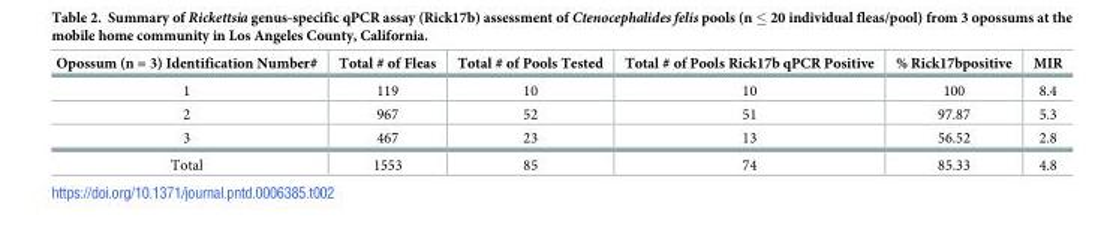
<table><thead><tr><td>Opossum (n = 3) Identification Number#</td><td>Total # of Fleas</td><td>Total # of Pools Tested</td><td>Total # of Pools Rick17b qPCR Positive</td><td>% Rick17bpositive</td><td>MIR</td></tr></thead><tbody><tr><td>1</td><td>119</td><td>10</td><td>10</td><td>100</td><td>8.4</td></tr><tr><td>2</td><td>967</td><td>52</td><td>51</td><td>97.87</td><td>5.3</td></tr><tr><td>3</td><td>467</td><td>23</td><td>13</td><td>56.52</td><td>2.8</td></tr><tr><td>Total</td><td>1553</td><td>85</td><td>74</td><td>85.33</td><td>4.8</td></tr></tbody></table>